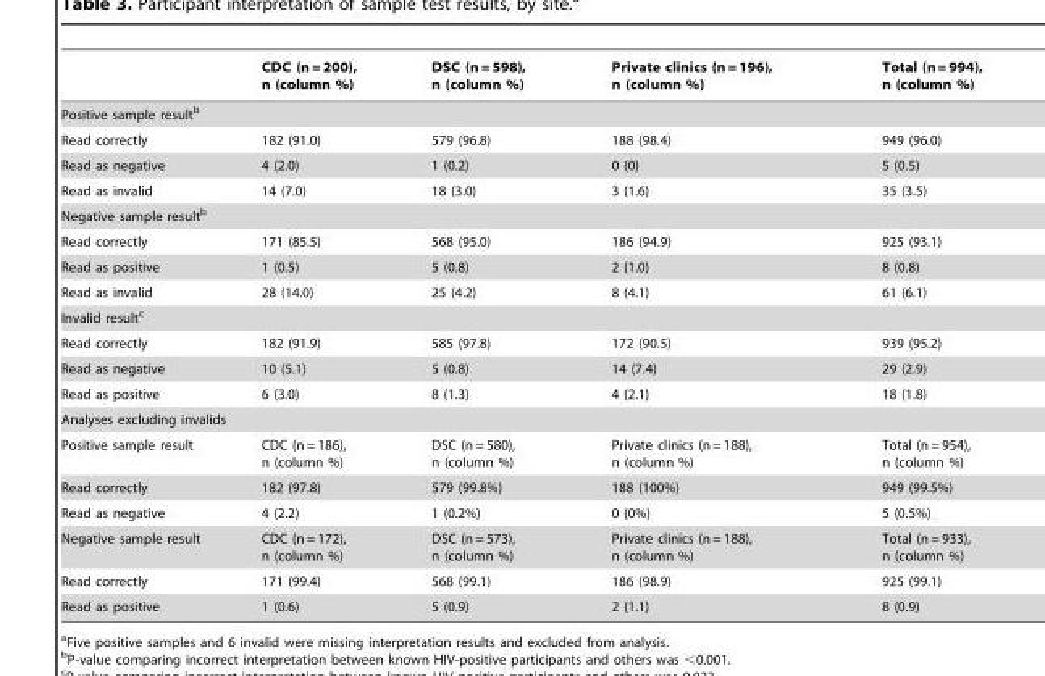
<table><thead><tr><td></td><td>CDC (n = 200), n (column %)</td><td>DSC (n = 598), n (column %)</td><td>Private clinics (n = 196), n (column %)</td><td>Total (n = 994), n (column %)</td></tr></thead><tbody><tr><td colspan="5">Positive sample result<sup>b</sup></td></tr><tr><td>Read correctly</td><td>182 (91.0)</td><td>579 (96.8)</td><td>188 (98.4)</td><td>949 (96.0)</td></tr><tr><td>Read as negative</td><td>4 (2.0)</td><td>1 (0.2)</td><td>0 (0)</td><td>5 (0.5)</td></tr><tr><td>Read as invalid</td><td>14 (7.0)</td><td>18 (3.0)</td><td>3 (1.6)</td><td>35 (3.5)</td></tr><tr><td colspan="5">Negative sample result<sup>b</sup></td></tr><tr><td>Read correctly</td><td>171 (85.5)</td><td>568 (95.0)</td><td>186 (94.9)</td><td>925 (93.1)</td></tr><tr><td>Read as positive</td><td>1 (0.5)</td><td>5 (0.8)</td><td>2 (1.0)</td><td>8 (0.8)</td></tr><tr><td>Read as invalid</td><td>28 (14.0)</td><td>25 (4.2)</td><td>8 (4.1)</td><td>61 (6.1)</td></tr><tr><td colspan="5">Invalid result<sup>c</sup></td></tr><tr><td>Read correctly</td><td>182 (91.9)</td><td>585 (97.8)</td><td>172 (90.5)</td><td>939 (95.2)</td></tr><tr><td>Read as negative</td><td>10 (5.1)</td><td>5 (0.8)</td><td>14 (7.4)</td><td>29 (2.9)</td></tr><tr><td>Read as positive</td><td>6 (3.0)</td><td>8 (1.3)</td><td>4 (2.1)</td><td>18 (1.8)</td></tr><tr><td colspan="5">Analyses excluding invalids</td></tr><tr><td>Positive sample result</td><td>CDC (n = 186), n (column %)</td><td>DSC (n = 580), n (column %)</td><td>Private clinics (n = 188), n (column %)</td><td>Total (n = 954), n (column %)</td></tr><tr><td>Read correctly</td><td>182 (97.8)</td><td>579 (99.8%)</td><td>188 (100%)</td><td>949 (99.5%)</td></tr><tr><td>Read as negative</td><td>4 (2.2)</td><td>1 (0.2%)</td><td>0 (0%)</td><td>5 (0.5%)</td></tr><tr><td>Negative sample result</td><td>CDC (n = 172), n (column %)</td><td>DSC (n = 573), n (column %)</td><td>Private clinics (n = 188), n (column %)</td><td>Total (n = 933), n (column %)</td></tr><tr><td>Read correctly</td><td>171 (99.4)</td><td>568 (99.1)</td><td>186 (98.9)</td><td>925 (99.1)</td></tr><tr><td>Read as positive</td><td>1 (0.6)</td><td>5 (0.9)</td><td>2 (1.1)</td><td>8 (0.9)</td></tr></tbody></table>